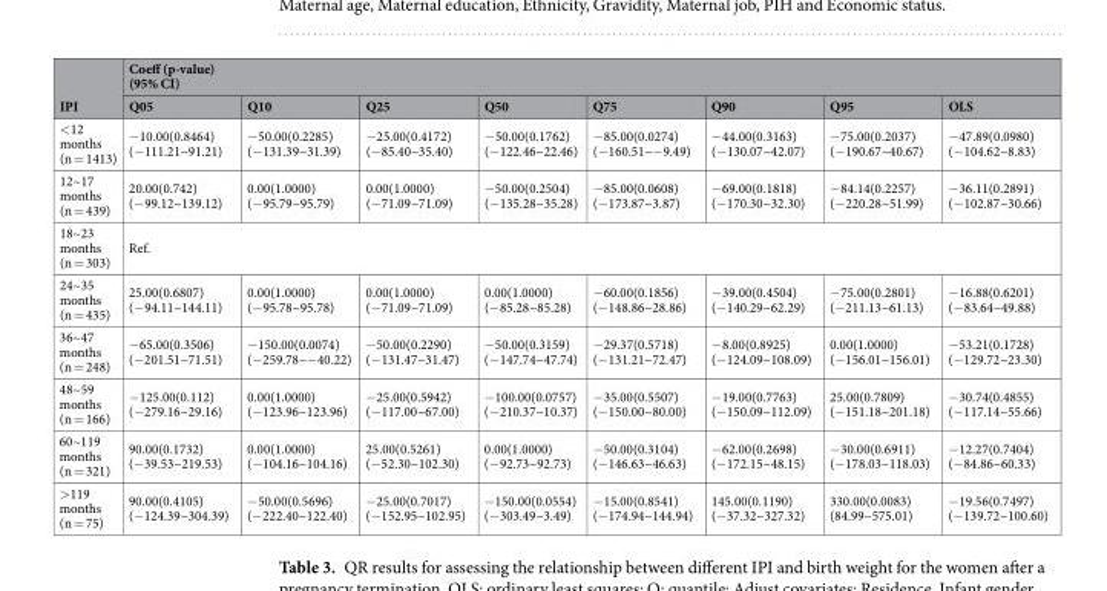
<table><thead><tr><td rowspan="2">IPI</td><td colspan="8">Coeff (p-value) (95% CI)</td></tr><tr><td>Q05</td><td>Q10</td><td>Q25</td><td>Q50</td><td>Q75</td><td>Q90</td><td>Q95</td><td>OLS</td></tr></thead><tbody><tr><td>&lt;12 months (n = 1413)</td><td>−10.00(0.8464) (−111.21~91.21)</td><td>−50.00(0.2285) (−131.39~31.39)</td><td>−25.00(0.4172) (−85.40~35.40)</td><td>−50.00(0.1762) (−122.46~22.46)</td><td>−85.00(0.0274) (−160.51~−9.49)</td><td>−44.00(0.3163) (−130.07~42.07)</td><td>−75.00(0.2037) (−190.67~40.67)</td><td>−47.89(0.0980) (−104.62~8.83)</td></tr><tr><td>12~17 months (n = 439)</td><td>20.00(0.742) (−99.12~139.12)</td><td>0.00(1.0000) (−95.79~95.79)</td><td>0.00(1.0000) (−71.09~71.09)</td><td>−50.00(0.2504) (−135.28~35.28)</td><td>−85.00(0.0608) (−173.87~3.87)</td><td>−69.00(0.1818) (−170.30~32.30)</td><td>−84.14(0.2257) (−220.28~51.99)</td><td>−36.11(0.2891) (−102.87~30.66)</td></tr><tr><td>18~23 months (n = 303)</td><td colspan="8">Ref.</td></tr><tr><td>24~35 months (n = 435)</td><td>25.00(0.6807) (−94.11~144.11)</td><td>0.00(1.0000) (−95.78~95.78)</td><td>0.00(1.0000) (−71.09~71.09)</td><td>0.00(1.0000) (−85.28~85.28)</td><td>−60.00(0.1856) (−148.86~28.86)</td><td>−39.00(0.4504) (−140.29~62.29)</td><td>−75.00(0.2801) (−211.13~61.13)</td><td>−16.88(0.6201) (−83.64~49.88)</td></tr><tr><td>36~47 months (n = 248)</td><td>−65.00(0.3506) (−201.51~71.51)</td><td>−150.00(0.0074) (−259.78~−40.22)</td><td>−50.00(0.2290) (−131.47~31.47)</td><td>−50.00(0.3159) (−147.74~47.74)</td><td>−29.37(0.5718) (−131.21~72.47)</td><td>−8.00(0.8925) (−124.09~108.09)</td><td>0.00(1.0000) (−156.01~156.01)</td><td>−53.21(0.1728) (−129.72~23.30)</td></tr><tr><td>48~59 months (n = 166)</td><td>−125.00(0.112) (−279.16~29.16)</td><td>0.00(1.0000) (−123.96~123.96)</td><td>−25.00(0.5942) (−117.00~67.00)</td><td>−100.00(0.0757) (−210.37~10.37)</td><td>−35.00(0.5507) (−150.00~80.00)</td><td>−19.00(0.7763) (−150.09~112.09)</td><td>25.00(0.7809) (−151.18~201.18)</td><td>−30.74(0.4855) (−117.14~55.66)</td></tr><tr><td>60~119 months (n = 321)</td><td>90.00(0.1732) (−39.53~219.53)</td><td>0.00(1.0000) (−104.16~104.16)</td><td>25.00(0.5261) (−52.30~102.30)</td><td>0.00(1.0000) (−92.73~92.73)</td><td>−50.00(0.3104) (−146.63~46.63)</td><td>−62.00(0.2698) (−172.15~48.15)</td><td>−30.00(0.6911) (−178.03~118.03)</td><td>−12.27(0.7404) (−84.86~60.33)</td></tr><tr><td>&gt;119 months (n = 75)</td><td>90.00(0.4105) (−124.39~304.39)</td><td>−50.00(0.5696) (−222.40~122.40)</td><td>−25.00(0.7017) (−152.95~102.95)</td><td>−150.00(0.0554) (−303.49~3.49)</td><td>−15.00(0.8541) (−174.94~144.94)</td><td>145.00(0.1190) (−37.32~327.32)</td><td>330.00(0.0083) (84.99~575.01)</td><td>−19.56(0.7497) (−139.72~100.60)</td></tr></tbody></table>